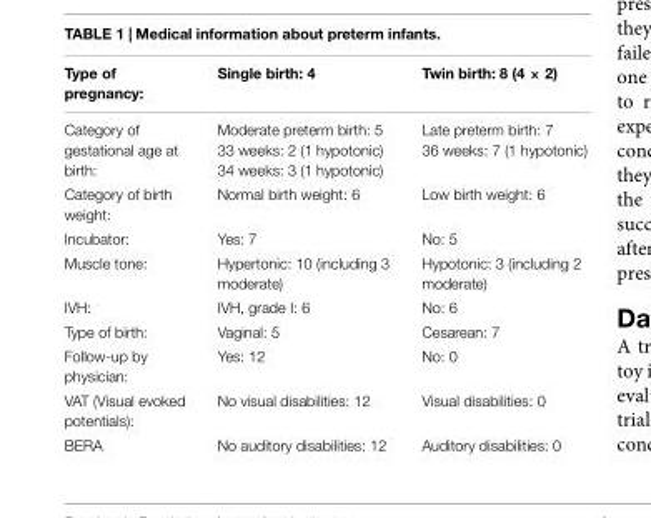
<table><thead><tr><td>Type of pregnancy:</td><td>Single birth: 4</td><td>Twin birth: 8 (4 × 2)</td></tr></thead><tbody><tr><td>Category of gestational age at birth:</td><td>Moderate preterm birth: 5 33 weeks: 2 (1 hypotonic) 34 weeks: 3 (1 hypotonic)</td><td>Late preterm birth: 7 36 weeks: 7 (1 hypotonic)</td></tr><tr><td>Category of birth weight:</td><td>Normal birth weight: 6</td><td>Low birth weight: 6</td></tr><tr><td>Incubator:</td><td>Yes: 7</td><td>No: 5</td></tr><tr><td>Muscle tone:</td><td>Hypertonic: 10 (including 3 moderate)</td><td>Hypotonic: 3 (including 2 moderate)</td></tr><tr><td>IVH:</td><td>IVH, grade I: 6</td><td>No: 6</td></tr><tr><td>Type of birth:</td><td>Vaginal: 5</td><td>Cesarean: 7</td></tr><tr><td>Follow-up by physician:</td><td>Yes: 12</td><td>No: 0</td></tr><tr><td>VAT (Visual evoked potentials):</td><td>No visual disabilities: 12</td><td>Visual disabilities: 0</td></tr><tr><td>BERA</td><td>No auditory disabilities: 12</td><td>Auditory disabilities: 0</td></tr></tbody></table>